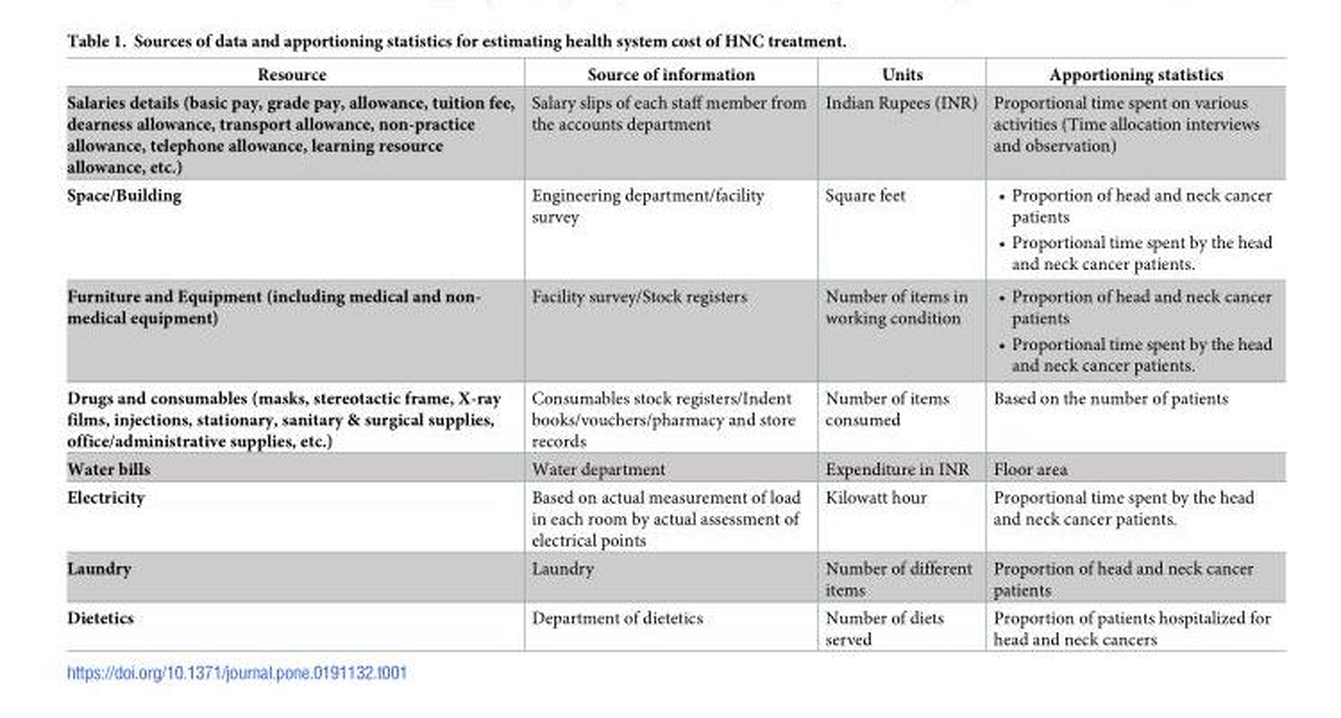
<table><thead><tr><td>Resource</td><td>Source of information</td><td>Units</td><td>Apportioning statistics</td></tr></thead><tbody><tr><td>Salaries details (basic pay, grade pay, allowance, tuition fee, dearness allowance, transport allowance, non-practice allowance, telephone allowance, learning resource allowance, etc.)</td><td>Salary slips of each staff member from the accounts department</td><td>Indian Rupees (INR)</td><td>Proportional time spent on various activities (Time allocation interviews and observation)</td></tr><tr><td>Space/Building</td><td>Engineering department/facility survey</td><td>Square feet</td><td>• Proportion of head and neck cancer patients • Proportional time spent by the head and neck cancer patients.</td></tr><tr><td>Furniture and Equipment (including medical and non- medical equipment)</td><td>Facility survey/Stock registers</td><td>Number of items in working condition</td><td>• Proportion of head and neck cancer patients • Proportional time spent by the head and neck cancer patients.</td></tr><tr><td>Drugs and consumables (masks, stereotactic frame, X-ray films, injections, stationary, sanitary &amp; surgical supplies, office/administrative supplies, etc.)</td><td>Consumables stock registers/Indent books/vouchers/pharmacy and store records</td><td>Number of items consumed</td><td>Based on the number of patients</td></tr><tr><td>Water bills</td><td>Water department</td><td>Expenditure in INR</td><td>Floor area</td></tr><tr><td>Electricity</td><td>Based on actual measurement of load in each room by actual assessment of electrical points</td><td>Kilowatt hour</td><td>Proportional time spent by the head and neck cancer patients.</td></tr><tr><td>Laundry</td><td>Laundry</td><td>Number of different items</td><td>Proportion of head and neck cancer patients</td></tr><tr><td>Dietetics</td><td>Department of dietetics</td><td>Number of diets served</td><td>Proportion of patients hospitalized for head and neck cancers</td></tr></tbody></table>